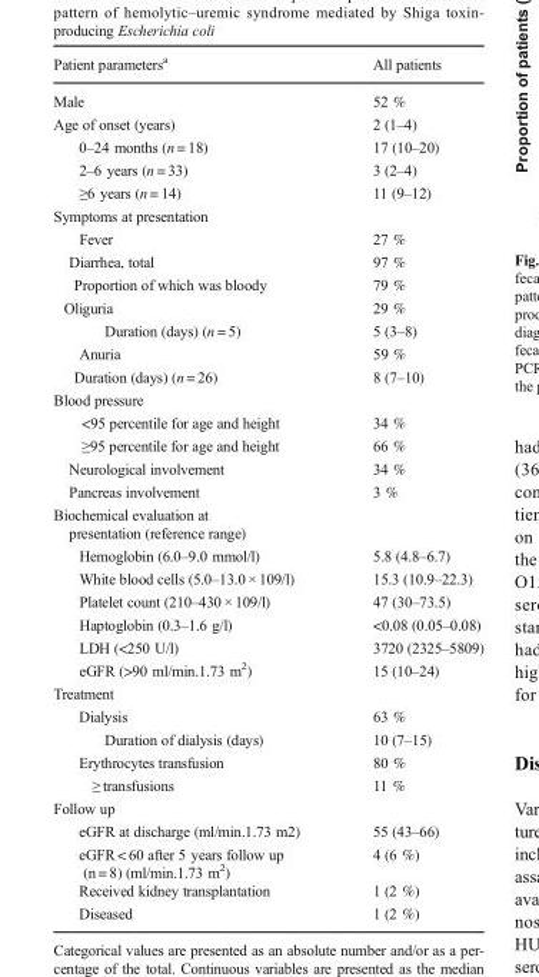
<table><thead><tr><td>Patient parameters<sup>a</sup></td><td>All patients</td></tr></thead><tbody><tr><td>Male</td><td>52 %</td></tr><tr><td>Age of onset (years)</td><td>2 (1–4)</td></tr><tr><td>0–24 months (n = 18)</td><td>17 (10–20)</td></tr><tr><td>2–6 years (n = 33)</td><td>3 (2–4)</td></tr><tr><td>≥6 years (n = 14)</td><td>11 (9–12)</td></tr><tr><td colspan="2">Symptoms at presentation</td></tr><tr><td>Fever</td><td>27 %</td></tr><tr><td>Diarrhea, total</td><td>97 %</td></tr><tr><td>Proportion of which was bloody</td><td>79 %</td></tr><tr><td>Oliguria</td><td>29 %</td></tr><tr><td>Duration (days) (n = 5)</td><td>5 (3–8)</td></tr><tr><td>Anuria</td><td>59 %</td></tr><tr><td>Duration (days) (n = 26)</td><td>8 (7–10)</td></tr><tr><td colspan="2">Blood pressure</td></tr><tr><td>&lt;95 percentile for age and height</td><td>34 %</td></tr><tr><td>≥95 percentile for age and height</td><td>66 %</td></tr><tr><td>Neurological involvement</td><td>34 %</td></tr><tr><td>Pancreas involvement</td><td>3 %</td></tr><tr><td colspan="2">Biochemical evaluation at presentation (reference range)</td></tr><tr><td>Hemoglobin (6.0–9.0 mmol/l)</td><td>5.8 (4.8–6.7)</td></tr><tr><td>White blood cells (5.0–13.0 × 109/l)</td><td>15.3 (10.9–22.3)</td></tr><tr><td>Platelet count (210–430 × 109/l)</td><td>47 (30–73.5)</td></tr><tr><td>Haptoglobin (0.3–1.6 g/l)</td><td>&lt;0.08 (0.05–0.08)</td></tr><tr><td>LDH (&lt;250 U/l)</td><td>3720 (2325–5809)</td></tr><tr><td>eGFR (&gt;90 ml/min.1.73 m<sup>2</sup>)</td><td>15 (10–24)</td></tr><tr><td colspan="2">Treatment</td></tr><tr><td>Dialysis</td><td>63 %</td></tr><tr><td>Duration of dialysis (days)</td><td>10 (7–15)</td></tr><tr><td>Erythrocytes transfusion</td><td>80 %</td></tr><tr><td>≥ transfusions</td><td>11 %</td></tr><tr><td colspan="2">Follow up</td></tr><tr><td>eGFR at discharge (ml/min.1.73 m2)</td><td>55 (43–66)</td></tr><tr><td>eGFR &lt; 60 after 5 years follow up (n = 8) (ml/min.1.73 m<sup>2</sup>)</td><td>4 (6 %)</td></tr><tr><td>Received kidney transplantation</td><td>1 (2 %)</td></tr><tr><td>Diseased</td><td>1 (2 %)</td></tr></tbody></table>